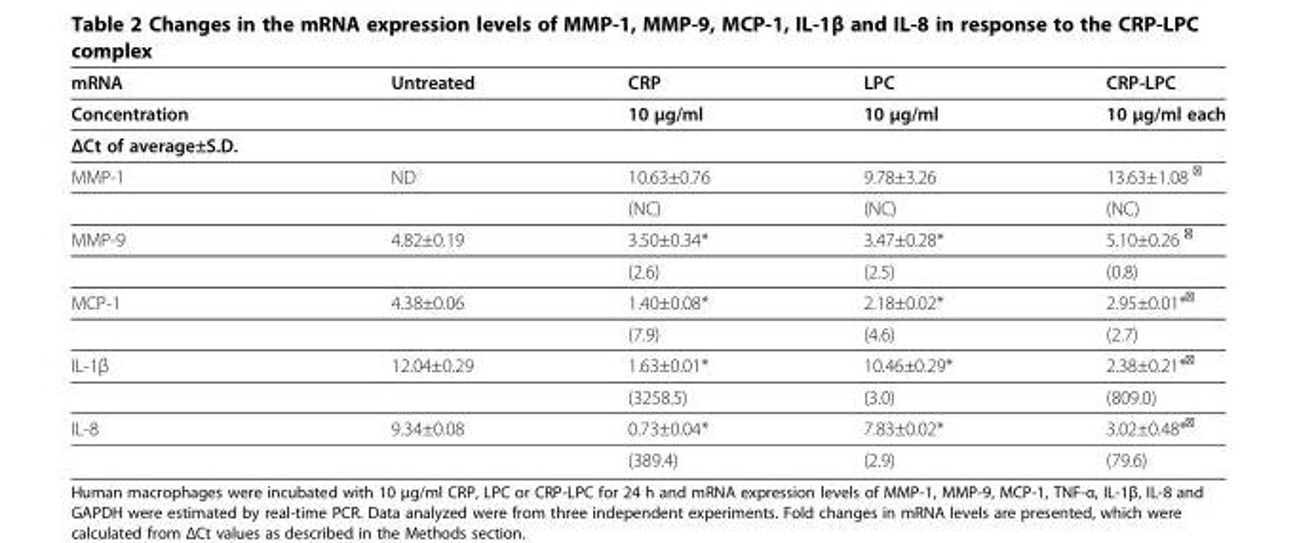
<table><thead><tr><td>mRNA</td><td>Untreated</td><td>CRP</td><td>LPC</td><td>CRP-LPC</td></tr></thead><tbody><tr><td>Concentration</td><td></td><td>10 μg/ml</td><td>10 μg/ml</td><td>10 μg/ml each</td></tr><tr><td colspan="5">ΔCt of average±S.D.</td></tr><tr><td rowspan="2">MMP-1</td><td>ND</td><td>10.63±0.76</td><td>9.78±3.26</td><td>13.63±1.08 <sup>┼</sup></td></tr><tr><td></td><td>(NC)</td><td>(NC)</td><td>(NC)</td></tr><tr><td rowspan="2">MMP-9</td><td>4.82±0.19</td><td>3.50±0.34*</td><td>3.47±0.28*</td><td>5.10±0.26 <sup>┼</sup></td></tr><tr><td></td><td>(2.6)</td><td>(2.5)</td><td>(0.8)</td></tr><tr><td rowspan="2">MCP-1</td><td>4.38±0.06</td><td>1.40±0.08*</td><td>2.18±0.02*</td><td>2.95±0.01*<sup>┼</sup></td></tr><tr><td></td><td>(7.9)</td><td>(4.6)</td><td>(2.7)</td></tr><tr><td rowspan="2">IL-1β</td><td>12.04±0.29</td><td>1.63±0.01*</td><td>10.46±0.29*</td><td>2.38±0.21*<sup>┼</sup></td></tr><tr><td></td><td>(3258.5)</td><td>(3.0)</td><td>(809.0)</td></tr><tr><td rowspan="2">IL-8</td><td>9.34±0.08</td><td>0.73±0.04*</td><td>7.83±0.02*</td><td>3.02±0.48*<sup>┼</sup></td></tr><tr><td></td><td>(389.4)</td><td>(2.9)</td><td>(79.6)</td></tr></tbody></table>